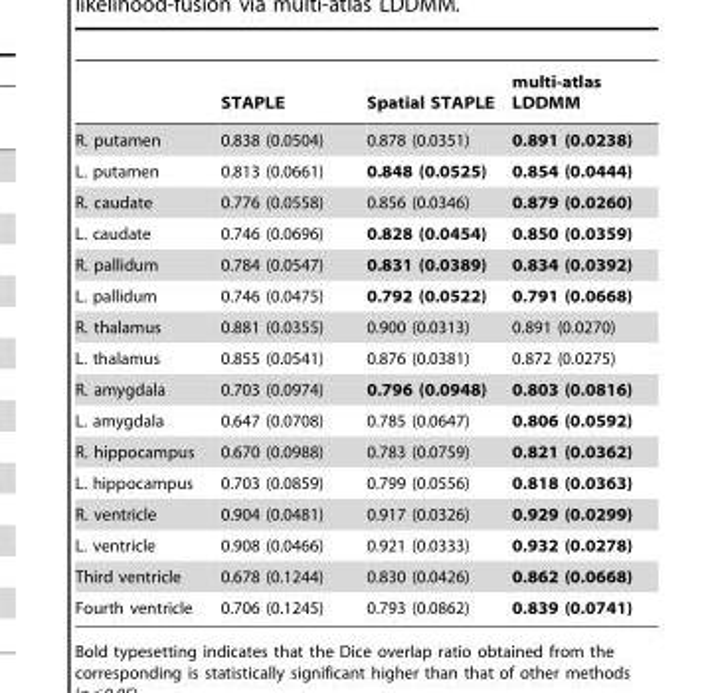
<table><thead><tr><td></td><td>STAPLE</td><td>Spatial STAPLE</td><td>multi-atlas LDDMM</td></tr></thead><tbody><tr><td>R. putamen</td><td>0.838 (0.0504)</td><td>0.878 (0.0351)</td><td>0.891 (0.0238)</td></tr><tr><td>L. putamen</td><td>0.813 (0.0661)</td><td>0.848 (0.0525)</td><td>0.854 (0.0444)</td></tr><tr><td>R. caudate</td><td>0.776 (0.0558)</td><td>0.856 (0.0346)</td><td>0.879 (0.0260)</td></tr><tr><td>L. caudate</td><td>0.746 (0.0696)</td><td>0.828 (0.0454)</td><td>0.850 (0.0359)</td></tr><tr><td>R. pallidum</td><td>0.784 (0.0547)</td><td>0.831 (0.0389)</td><td>0.834 (0.0392)</td></tr><tr><td>L. pallidum</td><td>0.746 (0.0475)</td><td>0.792 (0.0522)</td><td>0.791 (0.0668)</td></tr><tr><td>R. thalamus</td><td>0.881 (0.0355)</td><td>0.900 (0.0313)</td><td>0.891 (0.0270)</td></tr><tr><td>L. thalamus</td><td>0.855 (0.0541)</td><td>0.876 (0.0381)</td><td>0.872 (0.0275)</td></tr><tr><td>R. amygdala</td><td>0.703 (0.0974)</td><td>0.796 (0.0948)</td><td>0.803 (0.0816)</td></tr><tr><td>L. amygdala</td><td>0.647 (0.0708)</td><td>0.785 (0.0647)</td><td>0.806 (0.0592)</td></tr><tr><td>R. hippocampus</td><td>0.670 (0.0988)</td><td>0.783 (0.0759)</td><td>0.821 (0.0362)</td></tr><tr><td>L. hippocampus</td><td>0.703 (0.0859)</td><td>0.799 (0.0556)</td><td>0.818 (0.0363)</td></tr><tr><td>R. ventricle</td><td>0.904 (0.0481)</td><td>0.917 (0.0326)</td><td>0.929 (0.0299)</td></tr><tr><td>L. ventricle</td><td>0.908 (0.0466)</td><td>0.921 (0.0333)</td><td>0.932 (0.0278)</td></tr><tr><td>Third ventricle</td><td>0.678 (0.1244)</td><td>0.830 (0.0426)</td><td>0.862 (0.0668)</td></tr><tr><td>Fourth ventricle</td><td>0.706 (0.1245)</td><td>0.793 (0.0862)</td><td>0.839 (0.0741)</td></tr></tbody></table>